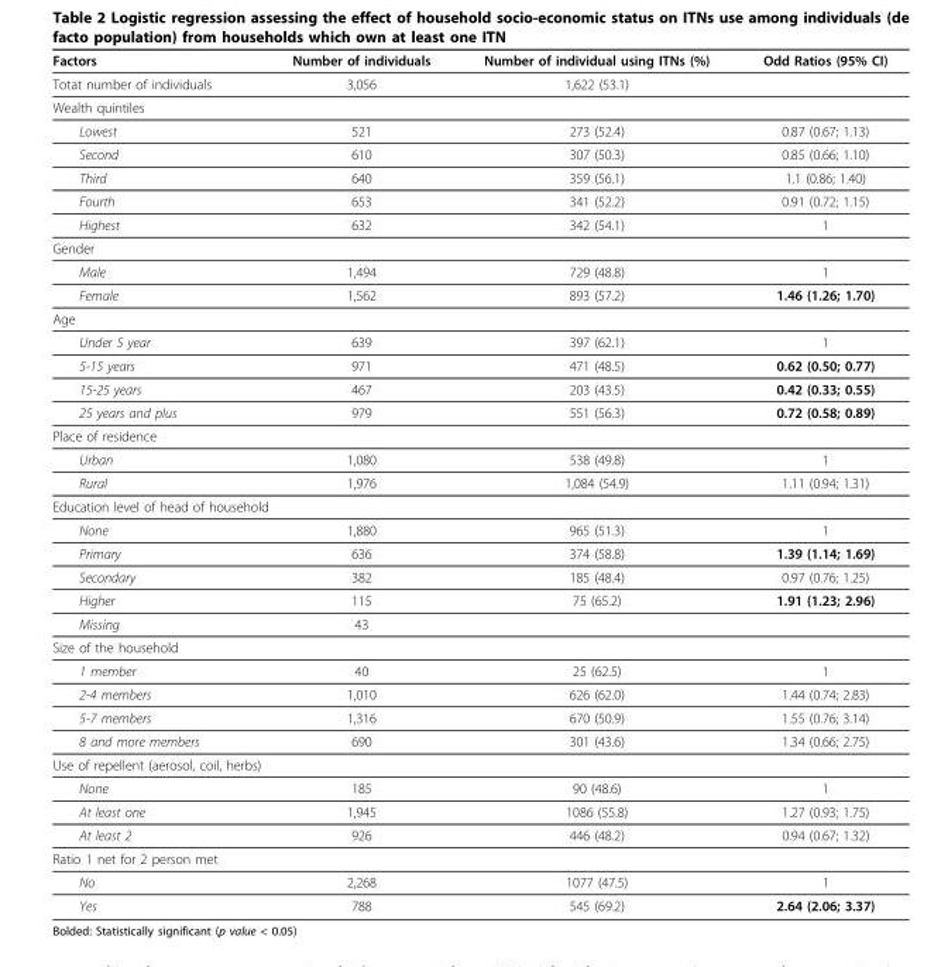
<table><thead><tr><td>Factors</td><td>Number of individuals</td><td>Number of individual using ITNs (%)</td><td>Odd Ratios (95% CI)</td></tr></thead><tbody><tr><td>Totat number of individuals</td><td>3,056</td><td>1,622 (53.1)</td><td></td></tr><tr><td colspan="4">Wealth quintiles</td></tr><tr><td>Lowest</td><td>521</td><td>273 (52.4)</td><td>0.87 (0.67; 1.13)</td></tr><tr><td>Second</td><td>610</td><td>307 (50.3)</td><td>0.85 (0.66; 1.10)</td></tr><tr><td>Third</td><td>640</td><td>359 (56.1)</td><td>1.1 (0.86; 1.40)</td></tr><tr><td>Fourth</td><td>653</td><td>341 (52.2)</td><td>0.91 (0.72; 1.15)</td></tr><tr><td>Highest</td><td>632</td><td>342 (54.1)</td><td>1</td></tr><tr><td colspan="4">Gender</td></tr><tr><td>Male</td><td>1,494</td><td>729 (48.8)</td><td>1</td></tr><tr><td>Female</td><td>1,562</td><td>893 (57.2)</td><td>1.46 (1.26; 1.70)</td></tr><tr><td colspan="4">Age</td></tr><tr><td>Under 5 year</td><td>639</td><td>397 (62.1)</td><td>1</td></tr><tr><td>5-15 years</td><td>971</td><td>471 (48.5)</td><td>0.62 (0.50; 0.77)</td></tr><tr><td>15-25 years</td><td>467</td><td>203 (43.5)</td><td>0.42 (0.33; 0.55)</td></tr><tr><td>25 years and plus</td><td>979</td><td>551 (56.3)</td><td>0.72 (0.58; 0.89)</td></tr><tr><td colspan="4">Place of residence</td></tr><tr><td>Urban</td><td>1,080</td><td>538 (49.8)</td><td>1</td></tr><tr><td>Rural</td><td>1,976</td><td>1,084 (54.9)</td><td>1.11 (0.94; 1.31)</td></tr><tr><td colspan="4">Education level of head of household</td></tr><tr><td>None</td><td>1,880</td><td>965 (51.3)</td><td>1</td></tr><tr><td>Primary</td><td>636</td><td>374 (58.8)</td><td>1.39 (1.14; 1.69)</td></tr><tr><td>Secondary</td><td>382</td><td>185 (48.4)</td><td>0.97 (0.76; 1.25)</td></tr><tr><td>Higher</td><td>115</td><td>75 (65.2)</td><td>1.91 (1.23; 2.96)</td></tr><tr><td>Missing</td><td>43</td><td></td><td></td></tr><tr><td colspan="4">Size of the household</td></tr><tr><td>1 member</td><td>40</td><td>25 (62.5)</td><td>1</td></tr><tr><td>2-4 members</td><td>1,010</td><td>626 (62.0)</td><td>1.44 (0.74; 2.83)</td></tr><tr><td>5-7 members</td><td>1,316</td><td>670 (50.9)</td><td>1.55 (0.76; 3.14)</td></tr><tr><td>8 and more members</td><td>690</td><td>301 (43.6)</td><td>1.34 (0.66; 2.75)</td></tr><tr><td colspan="4">Use of repellent (aerosol, coil, herbs)</td></tr><tr><td>None</td><td>185</td><td>90 (48.6)</td><td>1</td></tr><tr><td>At least one</td><td>1,945</td><td>1086 (55.8)</td><td>1.27 (0.93; 1.75)</td></tr><tr><td>At least 2</td><td>926</td><td>446 (48.2)</td><td>0.94 (0.67; 1.32)</td></tr><tr><td colspan="4">Ratio 1 net for 2 person met</td></tr><tr><td>No</td><td>2,268</td><td>1077 (47.5)</td><td>1</td></tr><tr><td>Yes</td><td>788</td><td>545 (69.2)</td><td>2.64 (2.06; 3.37)</td></tr></tbody></table>